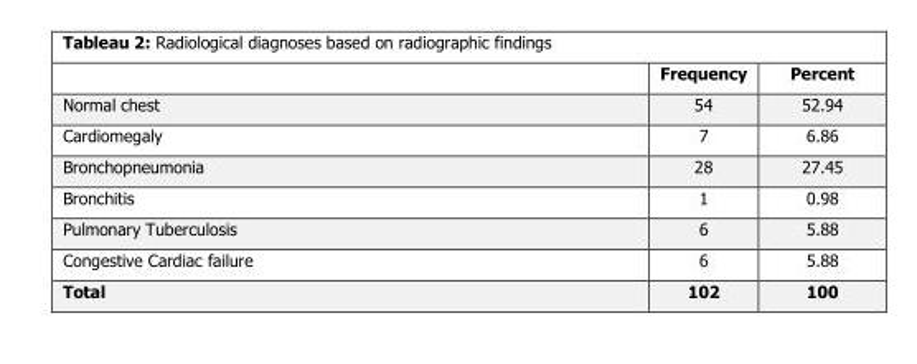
<table><thead><tr><td></td><td>Frequency</td><td>Percent</td></tr></thead><tbody><tr><td>Normal chest</td><td>54</td><td>52.94</td></tr><tr><td>Cardiomegaly</td><td>7</td><td>6.86</td></tr><tr><td>Bronchopneumonia</td><td>28</td><td>27.45</td></tr><tr><td>Bronchitis</td><td>1</td><td>0.98</td></tr><tr><td>Pulmonary Tuberculosis</td><td>6</td><td>5.88</td></tr><tr><td>Congestive Cardiac failure</td><td>6</td><td>5.88</td></tr><tr><td>Total</td><td>102</td><td>100</td></tr></tbody></table>